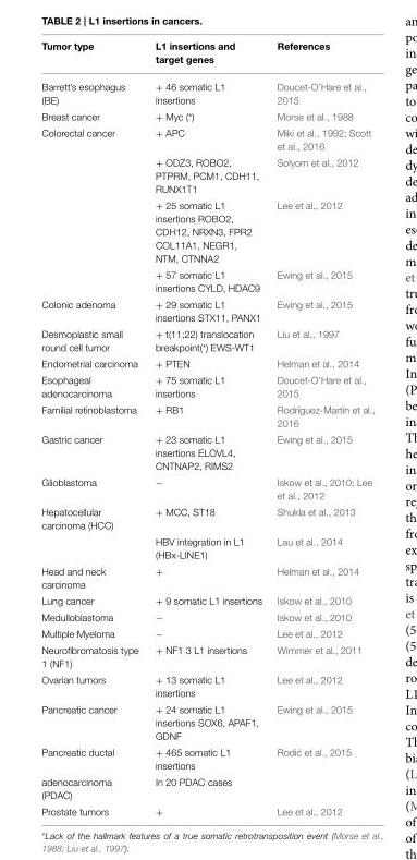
<table><thead><tr><td>Tumor type</td><td>L1 insertions and target genes</td><td>References</td></tr></thead><tbody><tr><td>Barrett’s esophagus (BE)</td><td>+ 46 somatic L1 insertions</td><td>Doucet-O’Hare et al., 2015</td></tr><tr><td>Breast cancer</td><td>+ Myc (*)</td><td>Morse et al., 1988</td></tr><tr><td rowspan="4">Colorectal cancer</td><td>+ APC</td><td>Miki et al., 1992; Scott et al., 2016</td></tr><tr><td>+ ODZ3, ROBO2, PTPRM, PCM1, CDH11, RUNX1T1</td><td>Solyom et al., 2012</td></tr><tr><td>+ 25 somatic L1 insertions ROBO2, CDH12, NRXN3, FPR2 COL11A1, NEGR1, NTM, CTNNA2</td><td>Lee et al., 2012</td></tr><tr><td>+ 57 somatic L1 insertions CYLD, HDAC9</td><td>Ewing et al., 2015</td></tr><tr><td>Colonic adenoma</td><td>+ 29 somatic L1 insertions STX11, PANX1</td><td>Ewing et al., 2015</td></tr><tr><td>Desmoplastic small round cell tumor</td><td>+ t(11;22) translocation breakpoint(*) EWS-WT1</td><td>Liu et al., 1997</td></tr><tr><td>Endometrial carcinoma</td><td>+ PTEN</td><td>Helman et al., 2014</td></tr><tr><td>Esophageal adenocarcinoma</td><td>+ 75 somatic L1 insertions</td><td>Doucet-O’Hare et al., 2015</td></tr><tr><td>Familial retinoblastoma</td><td>+ RB1</td><td>Rodríguez-Martín et al., 2016</td></tr><tr><td>Gastric cancer</td><td>+ 23 somatic L1 insertions ELOVL4, CNTNAP2, RIMS2</td><td>Ewing et al., 2015</td></tr><tr><td>Glioblastoma</td><td>−</td><td>Iskow et al., 2010; Lee et al., 2012</td></tr><tr><td rowspan="2">Hepatocellular carcinoma (HCC)</td><td>+ MCC, ST18</td><td>Shukla et al., 2013</td></tr><tr><td>HBV integration in L1 (HBx-LINE1)</td><td>Lau et al., 2014</td></tr><tr><td>Head and neck carcinoma</td><td>+</td><td>Helman et al., 2014</td></tr><tr><td>Lung cancer</td><td>+ 9 somatic L1 insertions</td><td>Iskow et al., 2010</td></tr><tr><td>Medulloblastoma</td><td>−</td><td>Iskow et al., 2010</td></tr><tr><td>Multiple Myeloma</td><td>−</td><td>Lee et al., 2012</td></tr><tr><td>Neurofibromatosis type 1 (NF1)</td><td>+ NF1 3 L1 insertions</td><td>Wimmer et al., 2011</td></tr><tr><td>Ovarian tumors</td><td>+ 13 somatic L1 insertions</td><td>Lee et al., 2012</td></tr><tr><td>Pancreatic cancer</td><td>+ 24 somatic L1 insertions SOX6, APAF1, GDNF</td><td>Ewing et al., 2015</td></tr><tr><td>Pancreatic ductal</td><td>+ 465 somatic L1 insertions</td><td>Rodi ´c et al., 2015</td></tr><tr><td>adenocarcinoma (PDAC)</td><td>In 20 PDAC cases</td><td></td></tr><tr><td>Prostate tumors</td><td>+</td><td>Lee et al., 2012</td></tr></tbody></table>